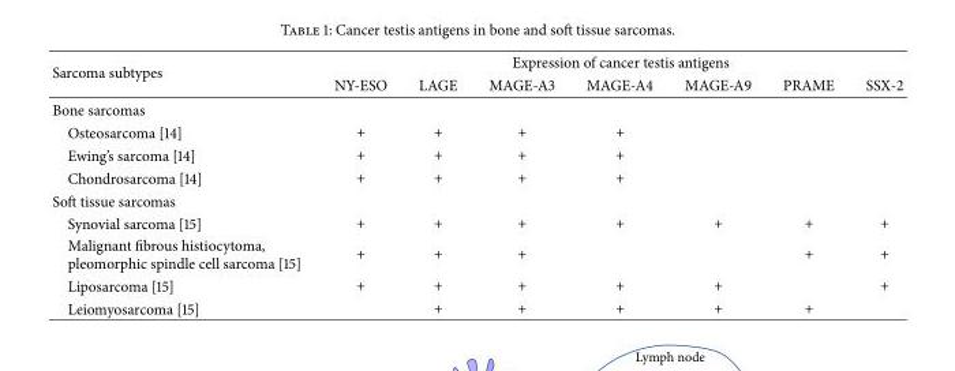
<table><thead><tr><td rowspan="2">Sarcoma subtypes</td><td colspan="7">Expression of cancer testis antigens</td></tr><tr><td>NY-ESO</td><td>LAGE</td><td>MAGE-A3</td><td>MAGE-A4</td><td>MAGE-A9</td><td>PRAME</td><td>SSX-2</td></tr></thead><tbody><tr><td colspan="8">Bone sarcomas</td></tr><tr><td>Osteosarcoma [14]</td><td>+</td><td>+</td><td>+</td><td>+</td><td></td><td></td><td></td></tr><tr><td>Ewing’s sarcoma [14]</td><td>+</td><td>+</td><td>+</td><td>+</td><td></td><td></td><td></td></tr><tr><td>Chondrosarcoma [14]</td><td>+</td><td>+</td><td>+</td><td>+</td><td></td><td></td><td></td></tr><tr><td colspan="8">Soft tissue sarcomas</td></tr><tr><td>Synovial sarcoma [15]</td><td>+</td><td>+</td><td>+</td><td>+</td><td>+</td><td>+</td><td>+</td></tr><tr><td>Malignant fibrous histiocytoma, pleomorphic spindle cell sarcoma [15]</td><td>+</td><td>+</td><td>+</td><td></td><td></td><td>+</td><td>+</td></tr><tr><td>Liposarcoma [15]</td><td>+</td><td>+</td><td>+</td><td>+</td><td>+</td><td></td><td>+</td></tr><tr><td>Leiomyosarcoma [15]</td><td></td><td>+</td><td>+</td><td>+</td><td>+</td><td>+</td><td></td></tr></tbody></table>